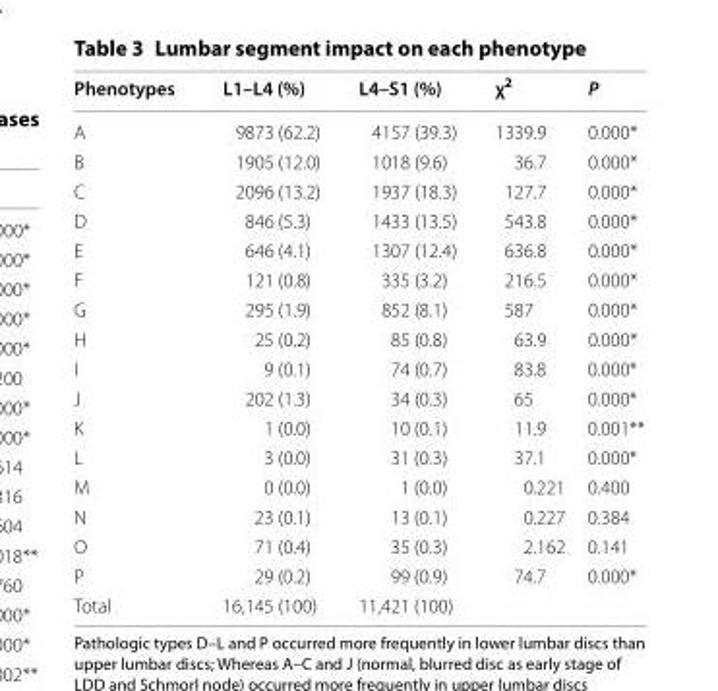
<table><thead><tr><td>Phenotypes</td><td>L1–L4 (%)</td><td>L4–S1 (%)</td><td>χ<sup>2</sup></td><td>P</td></tr></thead><tbody><tr><td>A</td><td>9873 (62.2)</td><td>4157 (39.3)</td><td>1339.9</td><td>0.000*</td></tr><tr><td>B</td><td>1905 (12.0)</td><td>1018 (9.6)</td><td>36.7</td><td>0.000*</td></tr><tr><td>C</td><td>2096 (13.2)</td><td>1937 (18.3)</td><td>127.7</td><td>0.000*</td></tr><tr><td>D</td><td>846 (5.3)</td><td>1433 (13.5)</td><td>543.8</td><td>0.000*</td></tr><tr><td>E</td><td>646 (4.1)</td><td>1307 (12.4)</td><td>636.8</td><td>0.000*</td></tr><tr><td>F</td><td>121 (0.8)</td><td>335 (3.2)</td><td>216.5</td><td>0.000*</td></tr><tr><td>G</td><td>295 (1.9)</td><td>852 (8.1)</td><td>587</td><td>0.000*</td></tr><tr><td>H</td><td>25 (0.2)</td><td>85 (0.8)</td><td>63.9</td><td>0.000*</td></tr><tr><td>I</td><td>9 (0.1)</td><td>74 (0.7)</td><td>83.8</td><td>0.000*</td></tr><tr><td>J</td><td>202 (1.3)</td><td>34 (0.3)</td><td>65</td><td>0.000*</td></tr><tr><td>K</td><td>1 (0.0)</td><td>10 (0.1)</td><td>11.9</td><td>0.001**</td></tr><tr><td>L</td><td>3 (0.0)</td><td>31 (0.3)</td><td>37.1</td><td>0.000*</td></tr><tr><td>M</td><td>0 (0.0)</td><td>1 (0.0)</td><td>0.221</td><td>0.400</td></tr><tr><td>N</td><td>23 (0.1)</td><td>13 (0.1)</td><td>0.227</td><td>0.384</td></tr><tr><td>O</td><td>71 (0.4)</td><td>35 (0.3)</td><td>2.162</td><td>0.141</td></tr><tr><td>P</td><td>29 (0.2)</td><td>99 (0.9)</td><td>74.7</td><td>0.000*</td></tr><tr><td>Total</td><td>16,145 (100)</td><td>11,421 (100)</td><td></td><td></td></tr></tbody></table>